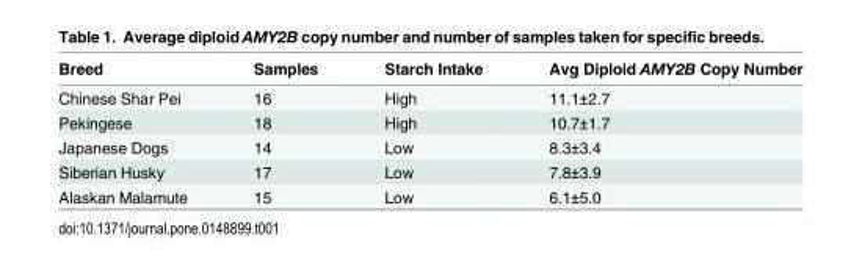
<table><thead><tr><td>Breed</td><td>Samples</td><td>Starch Intake</td><td>Avg Diploid AMY2B Copy Number</td></tr></thead><tbody><tr><td>Chinese Shar Pei</td><td>16</td><td>High</td><td>11.1±2.7</td></tr><tr><td>Pekingese</td><td>18</td><td>High</td><td>10.7±1.7</td></tr><tr><td>Japanese Dogs</td><td>14</td><td>Low</td><td>8.3±3.4</td></tr><tr><td>Siberian Husky</td><td>17</td><td>Low</td><td>7.8±3.9</td></tr><tr><td>Alaskan Malamute</td><td>15</td><td>Low</td><td>6.1±5.0</td></tr></tbody></table>